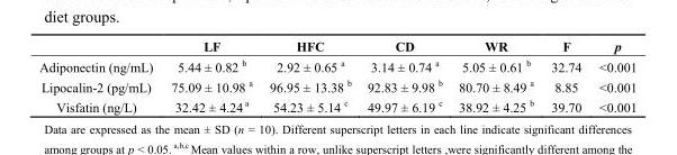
<table><thead><tr><td></td><td>LF</td><td>HFC</td><td>CD</td><td>WR</td><td>F</td><td>p</td></tr></thead><tbody><tr><td>Adiponectin (ng/mL)</td><td>5.44 ± 0.82 <sup>b</sup></td><td>2.92 ± 0.65 <sup>a</sup></td><td>3.14 ± 0.74 <sup>a</sup></td><td>5.05 ± 0.61 <sup>b</sup></td><td>32.74</td><td>&lt;0.001</td></tr><tr><td>Lipocalin-2 (pg/mL)</td><td>75.09 ± 10.98 <sup>a</sup></td><td>96.95 ± 13.38 <sup>b</sup></td><td>92.83 ± 9.98 <sup>b</sup></td><td>80.70 ± 8.49 <sup>a</sup></td><td>8.85</td><td>&lt;0.001</td></tr><tr><td>Visfatin (ng/L)</td><td>32.42 ± 4.24 <sup>a</sup></td><td>54.23 ± 5.14 <sup>c</sup></td><td>49.97 ± 6.19 <sup>c</sup></td><td>38.92 ± 4.25 <sup>b</sup></td><td>39.70</td><td>&lt;0.001</td></tr></tbody></table>